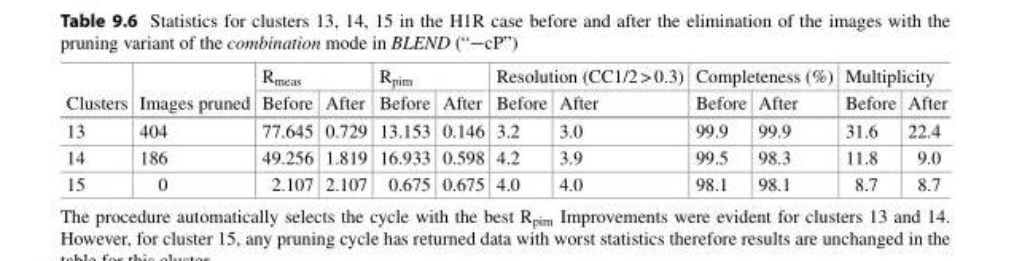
<table><thead><tr><td rowspan="2">Clusters</td><td rowspan="2">Images pruned</td><td colspan="2">R<sub>meas</sub></td><td colspan="2">R<sub>pim</sub></td><td colspan="2">Resolution (CC1/2 &gt; 0.3)</td><td colspan="2">Completeness (%)</td><td colspan="2">Multiplicity</td></tr><tr><td>Before</td><td>After</td><td>Before</td><td>After</td><td>Before</td><td>After</td><td>Before</td><td>After</td><td>Before</td><td>After</td></tr></thead><tbody><tr><td>13</td><td>404</td><td>77.645</td><td>0.729</td><td>13.153</td><td>0.146</td><td>3.2</td><td>3.0</td><td>99.9</td><td>99.9</td><td>31.6</td><td>22.4</td></tr><tr><td>14</td><td>186</td><td>49.256</td><td>1.819</td><td>16.933</td><td>0.598</td><td>4.2</td><td>3.9</td><td>99.5</td><td>98.3</td><td>11.8</td><td>9.0</td></tr><tr><td>15</td><td>0</td><td>2.107</td><td>2.107</td><td>0.675</td><td>0.675</td><td>4.0</td><td>4.0</td><td>98.1</td><td>98.1</td><td>8.7</td><td>8.7</td></tr></tbody></table>